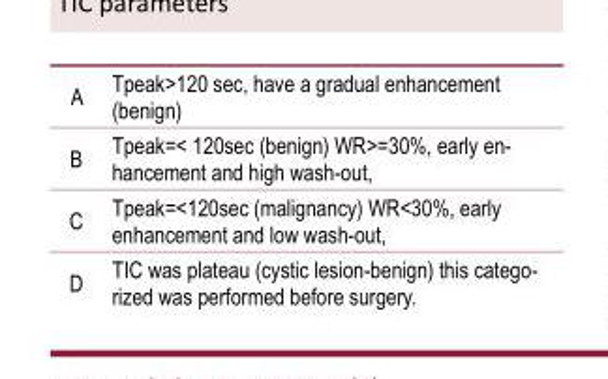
<table><tbody><tr><td>A</td><td>Tpeak&gt;120 sec, have a gradual enhancement (benign)</td></tr><tr><td>B</td><td>Tpeak=&lt; 120sec (benign) WR&gt;=30%, early en- hancement and high wash-out,</td></tr><tr><td>C</td><td>Tpeak=&lt;120sec (malignancy) WR&lt;30%, early enhancement and low wash-out,</td></tr><tr><td>D</td><td>TIC was plateau (cystic lesion-benign) this catego- rized was performed before surgery.</td></tr></tbody></table>